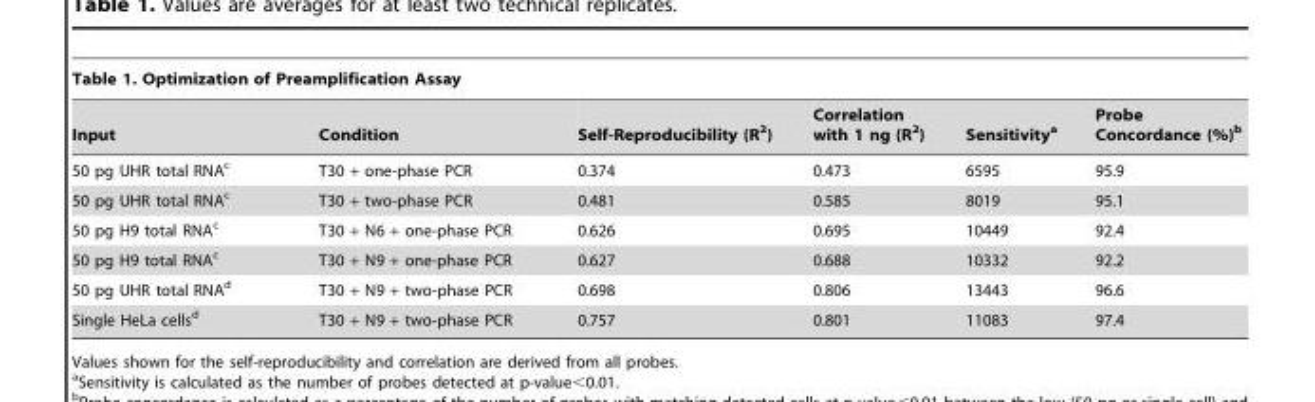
<table><thead><tr><td colspan="6">Table 1. Optimization of Preamplification Assay</td></tr><tr><td>Input</td><td>Condition</td><td>Self-Reproducibility (R<sup>2</sup>)</td><td>Correlation with 1 ng (R<sup>2</sup>)</td><td>Sensitivity<sup>a</sup></td><td>Probe Concordance (%)<sup>b</sup></td></tr></thead><tbody><tr><td>50 pg UHR total RNA<sup>c</sup></td><td>T30 + one-phase PCR</td><td>0.374</td><td>0.473</td><td>6595</td><td>95.9</td></tr><tr><td>50 pg UHR total RNA<sup>c</sup></td><td>T30 + two-phase PCR</td><td>0.481</td><td>0.585</td><td>8019</td><td>95.1</td></tr><tr><td>50 pg H9 total RNA<sup>c</sup></td><td>T30 + N6 + one-phase PCR</td><td>0.626</td><td>0.695</td><td>10449</td><td>92.4</td></tr><tr><td>50 pg H9 total RNA<sup>c</sup></td><td>T30 + N9 + one-phase PCR</td><td>0.627</td><td>0.688</td><td>10332</td><td>92.2</td></tr><tr><td>50 pg UHR total RNA<sup>d</sup></td><td>T30 + N9 + two-phase PCR</td><td>0.698</td><td>0.806</td><td>13443</td><td>96.6</td></tr><tr><td>Single HeLa cells<sup>d</sup></td><td>T30 + N9 + two-phase PCR</td><td>0.757</td><td>0.801</td><td>11083</td><td>97.4</td></tr></tbody></table>